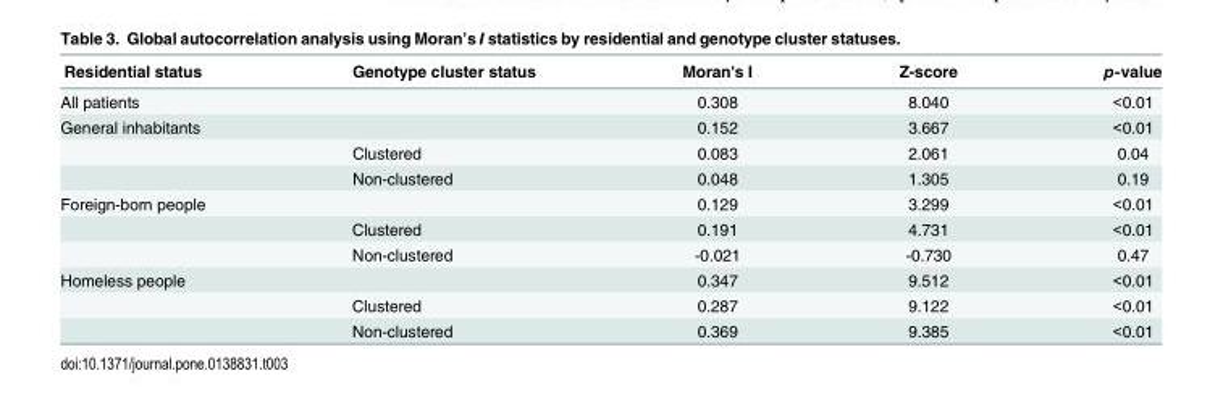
<table><thead><tr><td>Residential status</td><td>Genotype cluster status</td><td>Moran&#x27;s I</td><td>Z-score</td><td>p-value</td></tr></thead><tbody><tr><td>All patients</td><td></td><td>0.308</td><td>8.040</td><td>&lt;0.01</td></tr><tr><td rowspan="3">General inhabitants</td><td></td><td>0.152</td><td>3.667</td><td>&lt;0.01</td></tr><tr><td>Clustered</td><td>0.083</td><td>2.061</td><td>0.04</td></tr><tr><td>Non-clustered</td><td>0.048</td><td>1.305</td><td>0.19</td></tr><tr><td rowspan="3">Foreign-born people</td><td></td><td>0.129</td><td>3.299</td><td>&lt;0.01</td></tr><tr><td>Clustered</td><td>0.191</td><td>4.731</td><td>&lt;0.01</td></tr><tr><td>Non-clustered</td><td>-0.021</td><td>-0.730</td><td>0.47</td></tr><tr><td rowspan="3">Homeless people</td><td></td><td>0.347</td><td>9.512</td><td>&lt;0.01</td></tr><tr><td>Clustered</td><td>0.287</td><td>9.122</td><td>&lt;0.01</td></tr><tr><td>Non-clustered</td><td>0.369</td><td>9.385</td><td>&lt;0.01</td></tr></tbody></table>